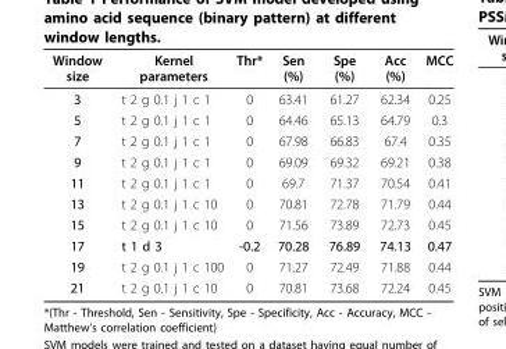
<table><thead><tr><td>Window size</td><td>Kernel parameters</td><td>Thr*</td><td>Sen (%)</td><td>Spe (%)</td><td>Acc (%)</td><td>MCC</td></tr></thead><tbody><tr><td>3</td><td>t 2 g 0.1 j 1 c 1</td><td>0</td><td>63.41</td><td>61.27</td><td>62.34</td><td>0.25</td></tr><tr><td>5</td><td>t 2 g 0.1 j 1 c 1</td><td>0</td><td>64.46</td><td>65.13</td><td>64.79</td><td>0.3</td></tr><tr><td>7</td><td>t 2 g 0.1 j 1 c 1</td><td>0</td><td>67.98</td><td>66.83</td><td>67.4</td><td>0.35</td></tr><tr><td>9</td><td>t 2 g 0.1 j 1 c 1</td><td>0</td><td>69.09</td><td>69.32</td><td>69.21</td><td>0.38</td></tr><tr><td>11</td><td>t 2 g 0.1 j 1 c 1</td><td>0</td><td>69.7</td><td>71.37</td><td>70.54</td><td>0.41</td></tr><tr><td>13</td><td>t 2 g 0.1 j 1 c 10</td><td>0</td><td>70.81</td><td>72.78</td><td>71.79</td><td>0.44</td></tr><tr><td>15</td><td>t 2 g 0.1 j 1 c 10</td><td>0</td><td>71.56</td><td>73.89</td><td>72.73</td><td>0.45</td></tr><tr><td>17</td><td>t 1 d 3</td><td>-0.2</td><td>70.28</td><td>76.89</td><td>74.13</td><td>0.47</td></tr><tr><td>19</td><td>t 2 g 0.1 j 1 c 100</td><td>0</td><td>71.27</td><td>72.49</td><td>71.88</td><td>0.44</td></tr><tr><td>21</td><td>t 2 g 0.1 j 1 c 10</td><td>0</td><td>70.81</td><td>73.68</td><td>72.24</td><td>0.45</td></tr></tbody></table>